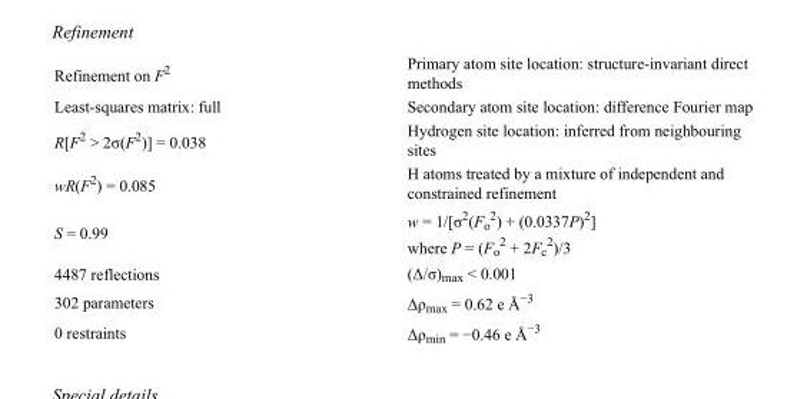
<table><tbody><tr><td>Refinement on F<sup>2</sup></td><td>Primary atom site location: structure-invariant direct methods</td></tr><tr><td>Least-squares matrix: full</td><td>Secondary atom site location: difference Fourier map</td></tr><tr><td>R[F<sup>2</sup> &gt; 2σ(F<sup>2</sup>)] = 0.038</td><td>Hydrogen site location: inferred from neighbouring sites</td></tr><tr><td>wR(F<sup>2</sup>) = 0.085</td><td>H atoms treated by a mixture of independent and constrained refinement</td></tr><tr><td>S = 0.99</td><td>w = 1/[σ<sup>2</sup>(F<sub>o</sub> <sup>2</sup>) + (0.0337P)<sup>2</sup>] where P = (F<sub>o</sub> <sup>2</sup> + 2F<sub>c</sub> <sup>2</sup>)/3</td></tr><tr><td>4487 reflections</td><td>(Δ/σ)<sub>max</sub> &lt; 0.001</td></tr><tr><td>302 parameters</td><td>Δρ<sub>max</sub> = 0.62 e Å<sup>−3</sup></td></tr><tr><td>0 restraints</td><td>Δρ<sub>min</sub> = −0.46 e Å<sup>−3</sup></td></tr></tbody></table>